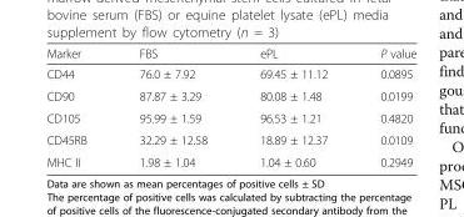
<table><thead><tr><td>Marker</td><td>FBS</td><td>ePL</td><td>P value</td></tr></thead><tbody><tr><td>CD44</td><td>76.0 ± 7.92</td><td>69.45 ± 11.12</td><td>0.0895</td></tr><tr><td>CD90</td><td>87.87 ± 3.29</td><td>80.08 ± 1.48</td><td>0.0199</td></tr><tr><td>CD105</td><td>95.99 ± 1.59</td><td>96.53 ± 1.21</td><td>0.4820</td></tr><tr><td>CD45RB</td><td>32.29 ± 12.58</td><td>18.89 ± 12.37</td><td>0.0109</td></tr><tr><td>MHC II</td><td>1.98 ± 1.04</td><td>1.04 ± 0.60</td><td>0.2949</td></tr></tbody></table>